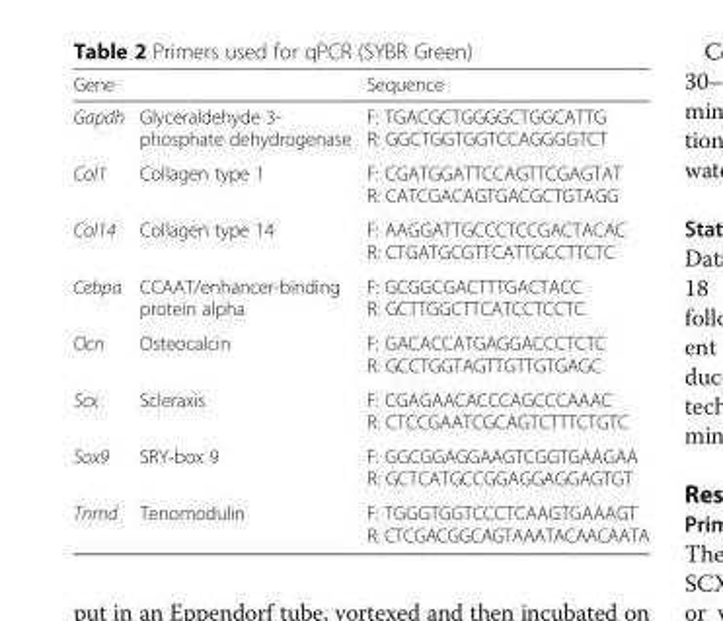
<table><thead><tr><td colspan="2">Gene</td><td rowspan="2">Sequence F: TGACGCTGGGGCTGGCATTG R: GGCTGGTGGTCCAGGGGTCT</td></tr><tr><td>Gapdh</td><td>Glyceraldehyde 3- phosphate dehydrogenase</td></tr></thead><tbody><tr><td>Col1</td><td>Collagen type 1</td><td>F: CGATGGATTCCAGTTCGAGTAT R: CATCGACAGTGACGCTGTAGG</td></tr><tr><td>Col14</td><td>Collagen type 14</td><td>F: AAGGATTGCCCTCCGACTACAC R: CTGATGCGTTCATTGCCTTCTC</td></tr><tr><td>Cebpa</td><td>CCAAT/enhancer-binding protein alpha</td><td>F: GCGGCGACTTTGACTACC R: GCTTGGCTTCATCCTCCTC</td></tr><tr><td>Ocn</td><td>Osteocalcin</td><td>F: GACACCATGAGGACCCTCTC R: GCCTGGTAGTTGTTGTGAGC</td></tr><tr><td>Scx</td><td>Scleraxis</td><td>F: CGAGAACACCCAGCCCAAAC R: CTCCGAATCGCAGTCTTTCTGTC</td></tr><tr><td>Sox9</td><td>SRY-box 9</td><td>F: GGCGGAGGAAGTCGGTGAAGAA R: GCTCATGCCGGAGGAGGAGTGT</td></tr><tr><td>Tnmd</td><td>Tenomodulin</td><td>F: TGGGTGGTCCCTCAAGTGAAAGT R: CTCGACGGCAGTAAATACAACAATA</td></tr></tbody></table>